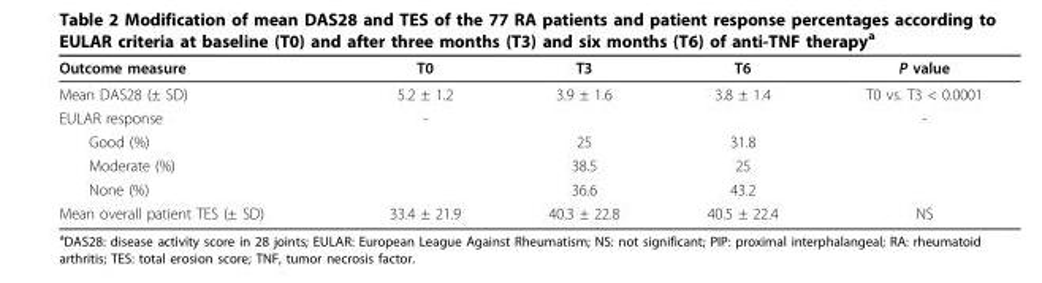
<table><thead><tr><td>Outcome measure</td><td>T0</td><td>T3</td><td>T6</td><td>P value</td></tr></thead><tbody><tr><td>Mean DAS28 (± SD)</td><td>5.2 ± 1.2</td><td>3.9 ± 1.6</td><td>3.8 ± 1.4</td><td>T0 vs. T3 &lt; 0.0001</td></tr><tr><td>EULAR response</td><td>-</td><td></td><td></td><td>-</td></tr><tr><td>Good (%)</td><td></td><td>25</td><td>31.8</td><td></td></tr><tr><td>Moderate (%)</td><td></td><td>38.5</td><td>25</td><td></td></tr><tr><td>None (%)</td><td></td><td>36.6</td><td>43.2</td><td></td></tr><tr><td>Mean overall patient TES (± SD)</td><td>33.4 ± 21.9</td><td>40.3 ± 22.8</td><td>40.5 ± 22.4</td><td>NS</td></tr></tbody></table>